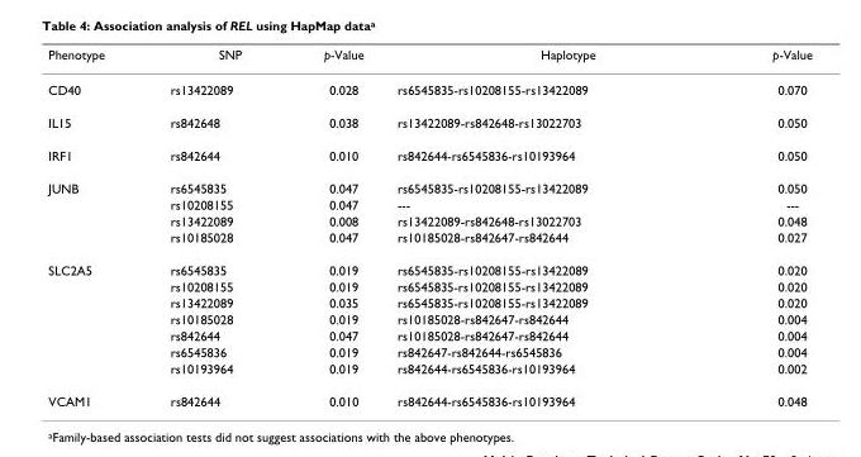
<table><thead><tr><td>Phenotype</td><td>SNP</td><td>p-Value</td><td>Haplotype</td><td>p-Value</td></tr></thead><tbody><tr><td>CD40</td><td>rs13422089</td><td>0.028</td><td>rs6545835-rs10208155-rs13422089</td><td>0.070</td></tr><tr><td>IL15</td><td>rs842648</td><td>0.038</td><td>rs13422089-rs842648-rs13022703</td><td>0.050</td></tr><tr><td>IRF1</td><td>rs842644</td><td>0.010</td><td>rs842644-rs6545836-rs10193964</td><td>0.050</td></tr><tr><td rowspan="4">JUNB</td><td>rs6545835</td><td>0.047</td><td>rs6545835-rs10208155-rs13422089</td><td>0.050</td></tr><tr><td>rs10208155</td><td>0.047</td><td>---</td><td>---</td></tr><tr><td>rs13422089</td><td>0.008</td><td>rs13422089-rs842648-rs13022703</td><td>0.048</td></tr><tr><td>rs10185028</td><td>0.047</td><td>rs10185028-rs842647-rs842644</td><td>0.027</td></tr><tr><td rowspan="7">SLC2A5</td><td>rs6545835</td><td>0.019</td><td>rs6545835-rs10208155-rs13422089</td><td>0.020</td></tr><tr><td>rs10208155</td><td>0.019</td><td>rs6545835-rs10208155-rs13422089</td><td>0.020</td></tr><tr><td>rs13422089</td><td>0.035</td><td>rs6545835-rs10208155-rs13422089</td><td>0.020</td></tr><tr><td>rs10185028</td><td>0.019</td><td>rs10185028-rs842647-rs842644</td><td>0.004</td></tr><tr><td>rs842644</td><td>0.047</td><td>rs10185028-rs842647-rs842644</td><td>0.004</td></tr><tr><td>rs6545836</td><td>0.019</td><td>rs842647-rs842644-rs6545836</td><td>0.004</td></tr><tr><td>rs10193964</td><td>0.019</td><td>rs842644-rs6545836-rs10193964</td><td>0.002</td></tr><tr><td>VCAM1</td><td>rs842644</td><td>0.010</td><td>rs842644-rs6545836-rs10193964</td><td>0.048</td></tr></tbody></table>